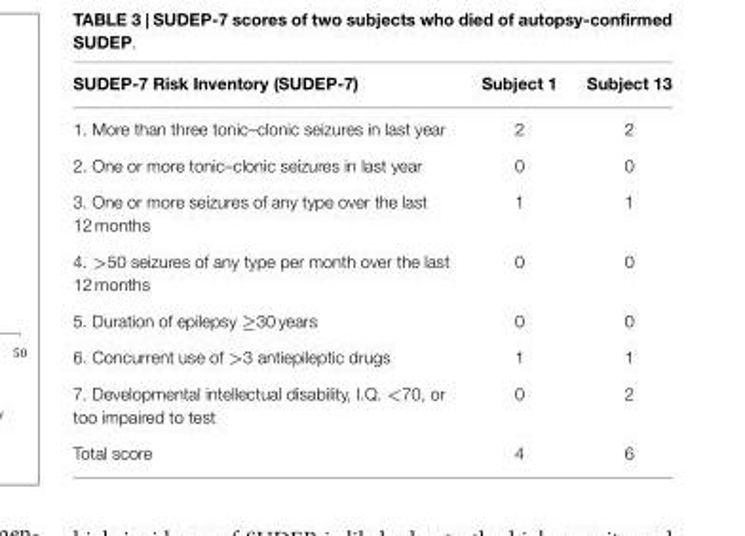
<table><thead><tr><td>SUDEP-7 Risk Inventory (SUDEP-7)</td><td>Subject 1</td><td>Subject 13</td></tr></thead><tbody><tr><td>1. More than three tonic–clonic seizures in last year</td><td>2</td><td>2</td></tr><tr><td>2. One or more tonic–clonic seizures in last year</td><td>0</td><td>0</td></tr><tr><td>3. One or more seizures of any type over the last 12 months</td><td>1</td><td>1</td></tr><tr><td>4. &gt;50 seizures of any type per month over the last 12 months</td><td>0</td><td>0</td></tr><tr><td>5. Duration of epilepsy ≥30 years</td><td>0</td><td>0</td></tr><tr><td>6. Concurrent use of &gt;3 antiepileptic drugs</td><td>1</td><td>1</td></tr><tr><td>7. Developmental intellectual disability, I.Q. &lt;70, or too impaired to test</td><td>0</td><td>2</td></tr><tr><td>Total score</td><td>4</td><td>6</td></tr></tbody></table>